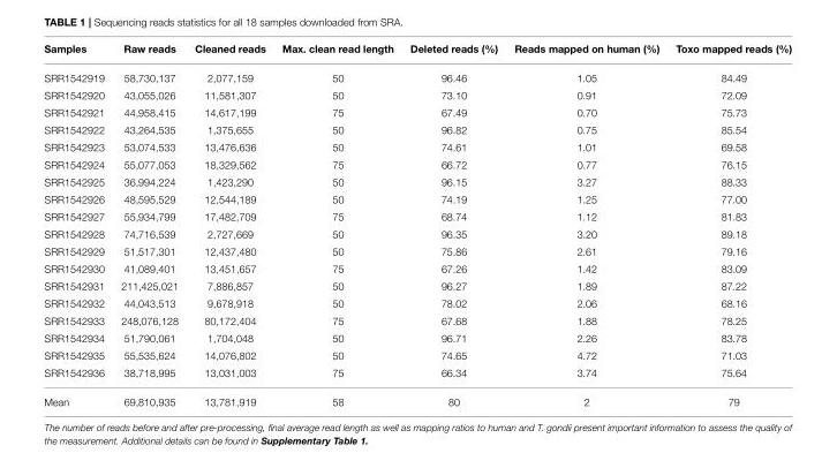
<table><thead><tr><td>Samples</td><td>Raw reads</td><td>Cleaned reads</td><td>Max. clean read length</td><td>Deleted reads (%)</td><td>Reads mapped on human (%)</td><td>Toxo mapped reads (%)</td></tr></thead><tbody><tr><td>SRR1542919</td><td>58,730,137</td><td>2,077,159</td><td>50</td><td>96.46</td><td>1.05</td><td>84.49</td></tr><tr><td>SRR1542920</td><td>43,055,026</td><td>11,581,307</td><td>50</td><td>73.10</td><td>0.91</td><td>72.09</td></tr><tr><td>SRR1542921</td><td>44,958,415</td><td>14,617,199</td><td>75</td><td>67.49</td><td>0.70</td><td>75.73</td></tr><tr><td>SRR1542922</td><td>43,264,535</td><td>1,375,655</td><td>50</td><td>96.82</td><td>0.75</td><td>85.54</td></tr><tr><td>SRR1542923</td><td>53,074,533</td><td>13,476,636</td><td>50</td><td>74.61</td><td>1.01</td><td>69.58</td></tr><tr><td>SRR1542924</td><td>55,077,053</td><td>18,329,562</td><td>75</td><td>66.72</td><td>0.77</td><td>76.15</td></tr><tr><td>SRR1542925</td><td>36,994,224</td><td>1,423,290</td><td>50</td><td>96.15</td><td>3.27</td><td>88.33</td></tr><tr><td>SRR1542926</td><td>48,595,529</td><td>12,544,189</td><td>50</td><td>74.19</td><td>1.25</td><td>77.00</td></tr><tr><td>SRR1542927</td><td>55,934,799</td><td>17,482,709</td><td>75</td><td>68.74</td><td>1.12</td><td>81.83</td></tr><tr><td>SRR1542928</td><td>74,716,539</td><td>2,727,669</td><td>50</td><td>96.35</td><td>3.20</td><td>89.18</td></tr><tr><td>SRR1542929</td><td>51,517,301</td><td>12,437,480</td><td>50</td><td>75.86</td><td>2.61</td><td>79.16</td></tr><tr><td>SRR1542930</td><td>41,089,401</td><td>13,451,657</td><td>75</td><td>67.26</td><td>1.42</td><td>83.09</td></tr><tr><td>SRR1542931</td><td>211,425,021</td><td>7,886,857</td><td>50</td><td>96.27</td><td>1.89</td><td>87.22</td></tr><tr><td>SRR1542932</td><td>44,043,513</td><td>9,678,918</td><td>50</td><td>78.02</td><td>2.06</td><td>68.16</td></tr><tr><td>SRR1542933</td><td>248,076,128</td><td>80,172,404</td><td>75</td><td>67.68</td><td>1.88</td><td>78.25</td></tr><tr><td>SRR1542934</td><td>51,790,061</td><td>1,704,048</td><td>50</td><td>96.71</td><td>2.26</td><td>83.78</td></tr><tr><td>SRR1542935</td><td>55,535,624</td><td>14,076,802</td><td>50</td><td>74.65</td><td>4.72</td><td>71.03</td></tr><tr><td>SRR1542936</td><td>38,718,995</td><td>13,031,003</td><td>75</td><td>66.34</td><td>3.74</td><td>75.64</td></tr><tr><td>Mean</td><td>69,810,935</td><td>13,781,919</td><td>58</td><td>80</td><td>2</td><td>79</td></tr></tbody></table>